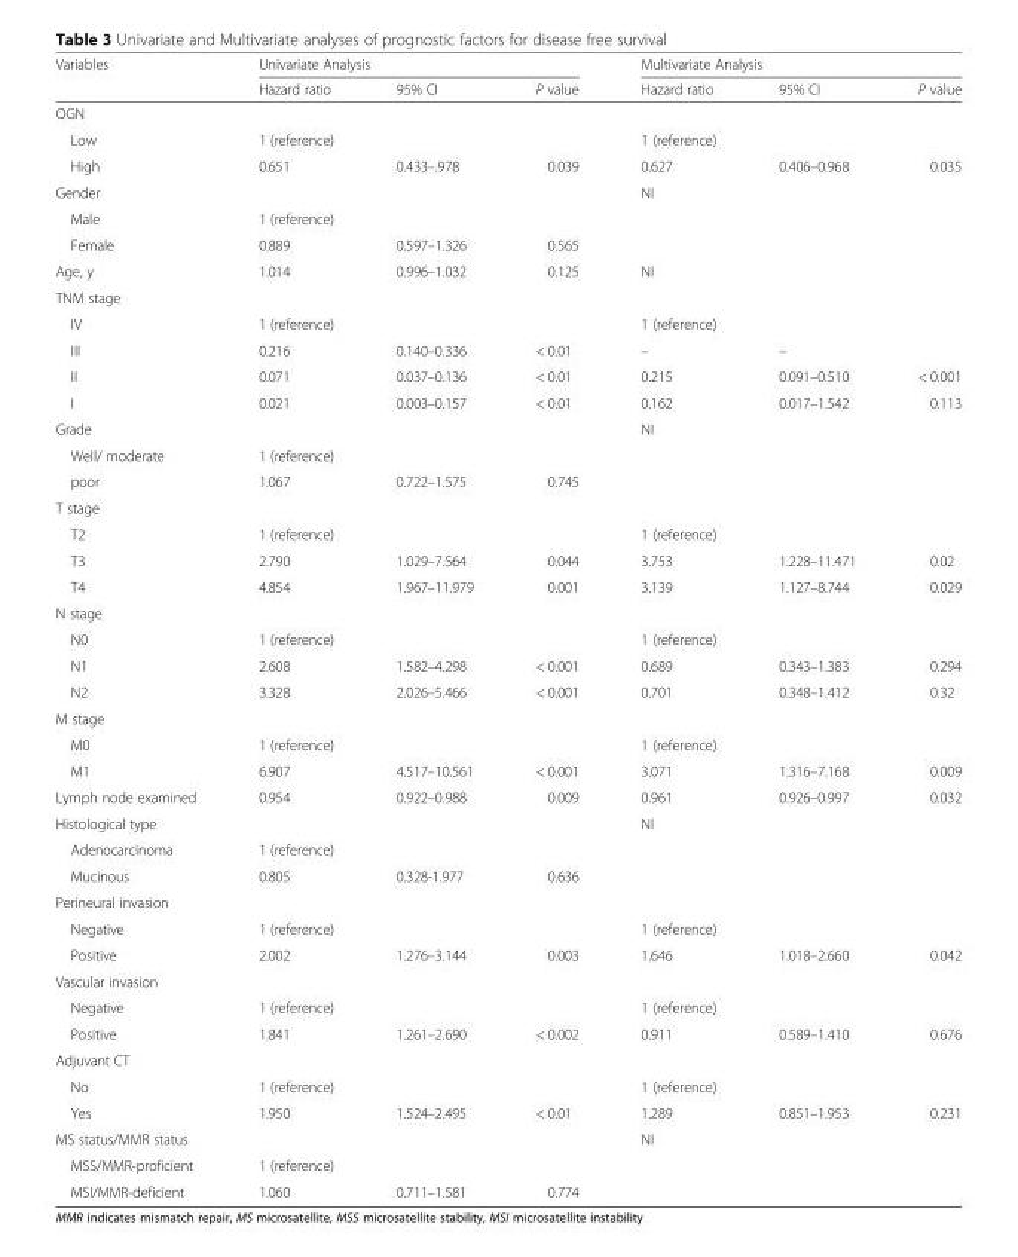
<table><thead><tr><td rowspan="2">Variables</td><td colspan="3">Univariate Analysis</td><td colspan="3">Multivariate Analysis</td></tr><tr><td>Hazard ratio</td><td>95% CI</td><td>P value</td><td>Hazard ratio</td><td>95% CI</td><td>P value</td></tr></thead><tbody><tr><td colspan="7">OGN</td></tr><tr><td>Low</td><td>1 (reference)</td><td></td><td></td><td>1 (reference)</td><td></td><td></td></tr><tr><td>High</td><td>0.651</td><td>0.433–.978</td><td>0.039</td><td>0.627</td><td>0.406–0.968</td><td>0.035</td></tr><tr><td>Gender</td><td></td><td></td><td></td><td>NI</td><td></td><td></td></tr><tr><td>Male</td><td>1 (reference)</td><td></td><td></td><td></td><td></td><td></td></tr><tr><td>Female</td><td>0.889</td><td>0.597–1.326</td><td>0.565</td><td></td><td></td><td></td></tr><tr><td>Age, y</td><td>1.014</td><td>0.996–1.032</td><td>0.125</td><td>NI</td><td></td><td></td></tr><tr><td colspan="7">TNM stage</td></tr><tr><td>IV</td><td>1 (reference)</td><td></td><td></td><td>1 (reference)</td><td></td><td></td></tr><tr><td>III</td><td>0.216</td><td>0.140–0.336</td><td>&lt; 0.01</td><td>–</td><td>–</td><td></td></tr><tr><td>II</td><td>0.071</td><td>0.037–0.136</td><td>&lt; 0.01</td><td>0.215</td><td>0.091–0.510</td><td>&lt; 0.001</td></tr><tr><td>I</td><td>0.021</td><td>0.003–0.157</td><td>&lt; 0.01</td><td>0.162</td><td>0.017–1.542</td><td>0.113</td></tr><tr><td>Grade</td><td></td><td></td><td></td><td>NI</td><td></td><td></td></tr><tr><td>Well/ moderate</td><td>1 (reference)</td><td></td><td></td><td></td><td></td><td></td></tr><tr><td>poor</td><td>1.067</td><td>0.722–1.575</td><td>0.745</td><td></td><td></td><td></td></tr><tr><td colspan="7">T stage</td></tr><tr><td>T2</td><td>1 (reference)</td><td></td><td></td><td>1 (reference)</td><td></td><td></td></tr><tr><td>T3</td><td>2.790</td><td>1.029–7.564</td><td>0.044</td><td>3.753</td><td>1.228–11.471</td><td>0.02</td></tr><tr><td>T4</td><td>4.854</td><td>1.967–11.979</td><td>0.001</td><td>3.139</td><td>1.127–8.744</td><td>0.029</td></tr><tr><td colspan="7">N stage</td></tr><tr><td>N0</td><td>1 (reference)</td><td></td><td></td><td>1 (reference)</td><td></td><td></td></tr><tr><td>N1</td><td>2.608</td><td>1.582–4.298</td><td>&lt; 0.001</td><td>0.689</td><td>0.343–1.383</td><td>0.294</td></tr><tr><td>N2</td><td>3.328</td><td>2.026–5.466</td><td>&lt; 0.001</td><td>0.701</td><td>0.348–1.412</td><td>0.32</td></tr><tr><td colspan="7">M stage</td></tr><tr><td>M0</td><td>1 (reference)</td><td></td><td></td><td>1 (reference)</td><td></td><td></td></tr><tr><td>M1</td><td>6.907</td><td>4.517–10.561</td><td>&lt; 0.001</td><td>3.071</td><td>1.316–7.168</td><td>0.009</td></tr><tr><td>Lymph node examined</td><td>0.954</td><td>0.922–0.988</td><td>0.009</td><td>0.961</td><td>0.926–0.997</td><td>0.032</td></tr><tr><td>Histological type</td><td></td><td></td><td></td><td>NI</td><td></td><td></td></tr><tr><td>Adenocarcinoma</td><td>1 (reference)</td><td></td><td></td><td></td><td></td><td></td></tr><tr><td>Mucinous</td><td>0.805</td><td>0.328-1.977</td><td>0.636</td><td></td><td></td><td></td></tr><tr><td colspan="7">Perineural invasion</td></tr><tr><td>Negative</td><td>1 (reference)</td><td></td><td></td><td>1 (reference)</td><td></td><td></td></tr><tr><td>Positive</td><td>2.002</td><td>1.276–3.144</td><td>0.003</td><td>1.646</td><td>1.018–2.660</td><td>0.042</td></tr><tr><td colspan="7">Vascular invasion</td></tr><tr><td>Negative</td><td>1 (reference)</td><td></td><td></td><td>1 (reference)</td><td></td><td></td></tr><tr><td>Positive</td><td>1.841</td><td>1.261–2.690</td><td>&lt; 0.002</td><td>0.911</td><td>0.589–1.410</td><td>0.676</td></tr><tr><td colspan="7">Adjuvant CT</td></tr><tr><td>No</td><td>1 (reference)</td><td></td><td></td><td>1 (reference)</td><td></td><td></td></tr><tr><td>Yes</td><td>1.950</td><td>1.524–2.495</td><td>&lt; 0.01</td><td>1.289</td><td>0.851–1.953</td><td>0.231</td></tr><tr><td>MS status/MMR status</td><td></td><td></td><td></td><td>NI</td><td></td><td></td></tr><tr><td>MSS/MMR-proficient</td><td>1 (reference)</td><td></td><td></td><td></td><td></td><td></td></tr><tr><td>MSI/MMR-deficient</td><td>1.060</td><td>0.711–1.581</td><td>0.774</td><td></td><td></td><td></td></tr></tbody></table>